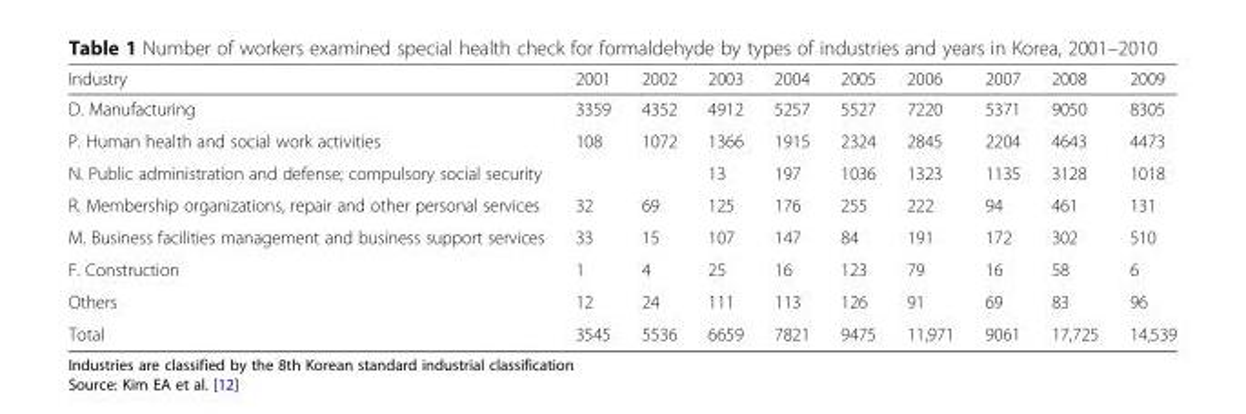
<table><thead><tr><td>Industry</td><td>2001</td><td>2002</td><td>2003</td><td>2004</td><td>2005</td><td>2006</td><td>2007</td><td>2008</td><td>2009</td></tr></thead><tbody><tr><td>D. Manufacturing</td><td>3359</td><td>4352</td><td>4912</td><td>5257</td><td>5527</td><td>7220</td><td>5371</td><td>9050</td><td>8305</td></tr><tr><td>P. Human health and social work activities</td><td>108</td><td>1072</td><td>1366</td><td>1915</td><td>2324</td><td>2845</td><td>2204</td><td>4643</td><td>4473</td></tr><tr><td>N. Public administration and defense; compulsory social security</td><td></td><td></td><td>13</td><td>197</td><td>1036</td><td>1323</td><td>1135</td><td>3128</td><td>1018</td></tr><tr><td>R. Membership organizations, repair and other personal services</td><td>32</td><td>69</td><td>125</td><td>176</td><td>255</td><td>222</td><td>94</td><td>461</td><td>131</td></tr><tr><td>M. Business facilities management and business support services</td><td>33</td><td>15</td><td>107</td><td>147</td><td>84</td><td>191</td><td>172</td><td>302</td><td>510</td></tr><tr><td>F. Construction</td><td>1</td><td>4</td><td>25</td><td>16</td><td>123</td><td>79</td><td>16</td><td>58</td><td>6</td></tr><tr><td>Others</td><td>12</td><td>24</td><td>111</td><td>113</td><td>126</td><td>91</td><td>69</td><td>83</td><td>96</td></tr><tr><td>Total</td><td>3545</td><td>5536</td><td>6659</td><td>7821</td><td>9475</td><td>11,971</td><td>9061</td><td>17,725</td><td>14,539</td></tr></tbody></table>